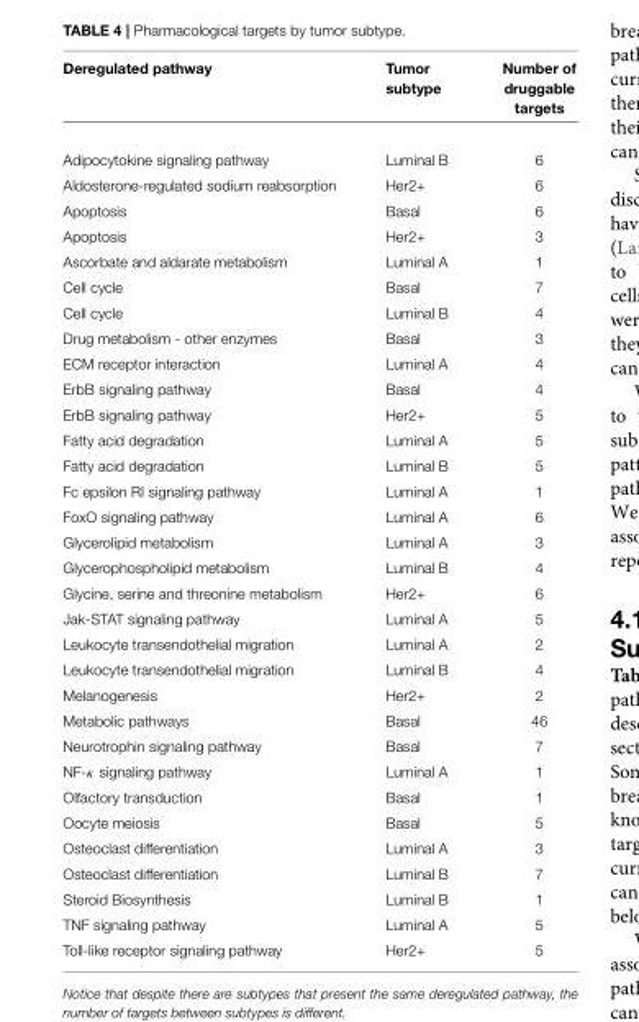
<table><thead><tr><td>Deregulated pathway</td><td>Tumor subtype</td><td>Number of druggable targets</td></tr></thead><tbody><tr><td>Adipocytokine signaling pathway</td><td>Luminal B</td><td>6</td></tr><tr><td>Aldosterone-regulated sodium reabsorption</td><td>Her2+</td><td>6</td></tr><tr><td>Apoptosis</td><td>Basal</td><td>6</td></tr><tr><td>Apoptosis</td><td>Her2+</td><td>3</td></tr><tr><td>Ascorbate and aldarate metabolism</td><td>Luminal A</td><td>1</td></tr><tr><td>Cell cycle</td><td>Basal</td><td>7</td></tr><tr><td>Cell cycle</td><td>Luminal B</td><td>4</td></tr><tr><td>Drug metabolism - other enzymes</td><td>Basal</td><td>3</td></tr><tr><td>ECM receptor interaction</td><td>Luminal A</td><td>4</td></tr><tr><td>ErbB signaling pathway</td><td>Basal</td><td>4</td></tr><tr><td>ErbB signaling pathway</td><td>Her2+</td><td>5</td></tr><tr><td>Fatty acid degradation</td><td>Luminal A</td><td>5</td></tr><tr><td>Fatty acid degradation</td><td>Luminal B</td><td>5</td></tr><tr><td>Fc epsilon RI signaling pathway</td><td>Luminal A</td><td>1</td></tr><tr><td>FoxO signaling pathway</td><td>Luminal A</td><td>6</td></tr><tr><td>Glycerolipid metabolism</td><td>Luminal A</td><td>3</td></tr><tr><td>Glycerophospholipid metabolism</td><td>Luminal B</td><td>4</td></tr><tr><td>Glycine, serine and threonine metabolism</td><td>Her2+</td><td>6</td></tr><tr><td>Jak-STAT signaling pathway</td><td>Luminal A</td><td>5</td></tr><tr><td>Leukocyte transendothelial migration</td><td>Luminal A</td><td>2</td></tr><tr><td>Leukocyte transendothelial migration</td><td>Luminal B</td><td>4</td></tr><tr><td>Melanogenesis</td><td>Her2+</td><td>2</td></tr><tr><td>Metabolic pathways</td><td>Basal</td><td>46</td></tr><tr><td>Neurotrophin signaling pathway</td><td>Basal</td><td>7</td></tr><tr><td>NF-κ signaling pathway</td><td>Luminal A</td><td>1</td></tr><tr><td>Olfactory transduction</td><td>Basal</td><td>1</td></tr><tr><td>Oocyte meiosis</td><td>Basal</td><td>5</td></tr><tr><td>Osteoclast differentiation</td><td>Luminal A</td><td>3</td></tr><tr><td>Osteoclast differentiation</td><td>Luminal B</td><td>7</td></tr><tr><td>Steroid Biosynthesis</td><td>Luminal B</td><td>1</td></tr><tr><td>TNF signaling pathway</td><td>Luminal A</td><td>5</td></tr><tr><td>Toll-like receptor signaling pathway</td><td>Her2+</td><td>5</td></tr></tbody></table>